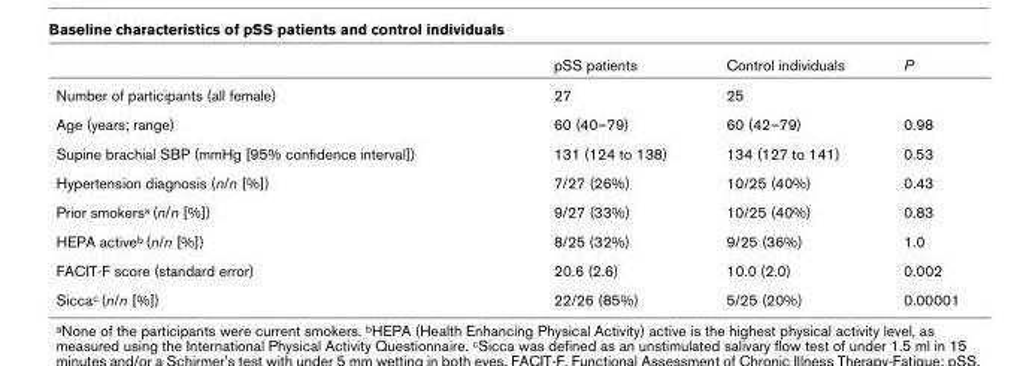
<table><thead><tr><td></td><td>pSS patients</td><td>Control individuals</td><td>P</td></tr></thead><tbody><tr><td>Number of participants (all female)</td><td>27</td><td>25</td><td></td></tr><tr><td>Age (years; range)</td><td>60 (40–79)</td><td>60 (42–79)</td><td>0.98</td></tr><tr><td>Supine brachial SBP (mmHg [95% confidence interval])</td><td>131 (124 to 138)</td><td>134 (127 to 141)</td><td>0.53</td></tr><tr><td>Hypertension diagnosis (n/n [%])</td><td>7/27 (26%)</td><td>10/25 (40%)</td><td>0.43</td></tr><tr><td>Prior smokers<sup>a</sup> (n/n [%])</td><td>9/27 (33%)</td><td>10/25 (40%)</td><td>0.83</td></tr><tr><td>HEPA active<sup>b</sup> (n/n [%])</td><td>8/25 (32%)</td><td>9/25 (36%)</td><td>1.0</td></tr><tr><td>FACIT-F score (standard error)</td><td>20.6 (2.6)</td><td>10.0 (2.0)</td><td>0.002</td></tr><tr><td>Sicca<sup>c</sup> (n/n [%])</td><td>22/26 (85%)</td><td>5/25 (20%)</td><td>0.00001</td></tr></tbody></table>